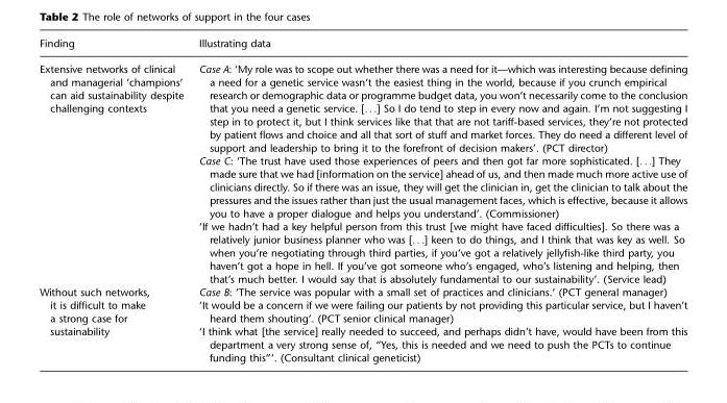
<table><thead><tr><td>Finding</td><td>Illustrating data</td></tr></thead><tbody><tr><td rowspan="3">Extensive networks of clinical and managerial ‘champions’ can aid sustainability despite challenging contexts</td><td>Case A: ‘My role was to scope out whether there was a need for it—which was interesting because defining a need for a genetic service wasn’t the easiest thing in the world, because if you crunch empirical research or demographic data or programme budget data, you won’t necessarily come to the conclusion that you need a genetic service. [. . .] So I do tend to step in every now and again. I’m not suggesting I step in to protect it, but I think services like that that are not tariff-based services, they’re not protected by patient flows and choice and all that sort of stuff and market forces. They do need a different level of support and leadership to bring it to the forefront of decision makers’. (PCT director)</td></tr><tr><td>Case C: ‘The trust have used those experiences of peers and then got far more sophisticated. [. . .] They made sure that we had [information on the service] ahead of us, and then made much more active use of clinicians directly. So if there was an issue, they will get the clinician in, get the clinician to talk about the pressures and the issues rather than just the usual management faces, which is effective, because it allows you to have a proper dialogue and helps you understand’. (Commissioner)</td></tr><tr><td>‘If we hadn’t had a key helpful person from this trust [we might have faced difficulties]. So there was a relatively junior business planner who was [. . .] keen to do things, and I think that was key as well. So when you’re negotiating through third parties, if you’ve got a relatively jellyfish-like third party, you haven’t got a hope in hell. If you’ve got someone who’s engaged, who’s listening and helping, then that’s much better. I would say that is absolutely fundamental to our sustainability’. (Service lead)</td></tr><tr><td rowspan="3">Without such networks, it is difficult to make a strong case for sustainability</td><td>Case B: ‘The service was popular with a small set of practices and clinicians.’ (PCT general manager)</td></tr><tr><td>‘It would be a concern if we were failing our patients by not providing this particular service, but I haven’t heard them shouting’. (PCT senior clinical manager)</td></tr><tr><td>‘I think what [the service] really needed to succeed, and perhaps didn’t have, would have been from this department a very strong sense of, “Yes, this is needed and we need to push the PCTs to continue funding this”’. (Consultant clinical geneticist)</td></tr></tbody></table>